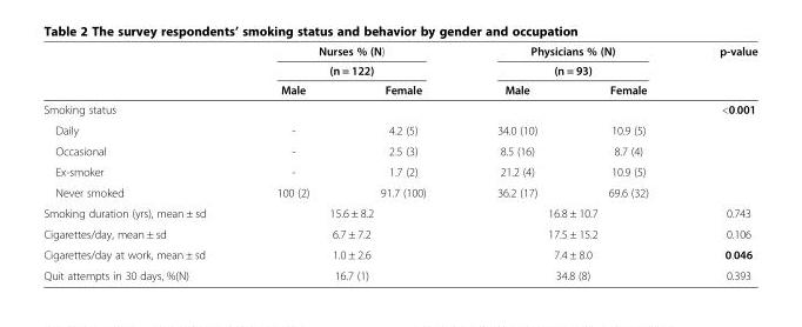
<table><thead><tr><td rowspan="3"></td><td rowspan="2" colspan="2">Nurses % (N) (n = 122)</td><td rowspan="2" colspan="2">Physicians % (N) (n = 93)</td><td rowspan="3">p-value</td></tr><tr></tr><tr><td>Male</td><td>Female</td><td>Male</td><td>Female</td></tr></thead><tbody><tr><td>Smoking status</td><td></td><td></td><td></td><td></td><td>&lt;0.001</td></tr><tr><td>Daily</td><td>-</td><td>4.2 (5)</td><td>34.0 (10)</td><td>10.9 (5)</td><td></td></tr><tr><td>Occasional</td><td>-</td><td>2.5 (3)</td><td>8.5 (16)</td><td>8.7 (4)</td><td></td></tr><tr><td>Ex-smoker</td><td>-</td><td>1.7 (2)</td><td>21.2 (4)</td><td>10.9 (5)</td><td></td></tr><tr><td>Never smoked</td><td>100 (2)</td><td>91.7 (100)</td><td>36.2 (17)</td><td>69.6 (32)</td><td></td></tr><tr><td>Smoking duration (yrs), mean ± sd</td><td colspan="2">15.6 ± 8.2</td><td colspan="2">16.8 ± 10.7</td><td>0.743</td></tr><tr><td>Cigarettes/day, mean ± sd</td><td colspan="2">6.7 ± 7.2</td><td colspan="2">17.5 ± 15.2</td><td>0.106</td></tr><tr><td>Cigarettes/day at work, mean ± sd</td><td colspan="2">1.0 ± 2.6</td><td colspan="2">7.4 ± 8.0</td><td>0.046</td></tr><tr><td>Quit attempts in 30 days, %(N)</td><td colspan="2">16.7 (1)</td><td colspan="2">34.8 (8)</td><td>0.393</td></tr></tbody></table>